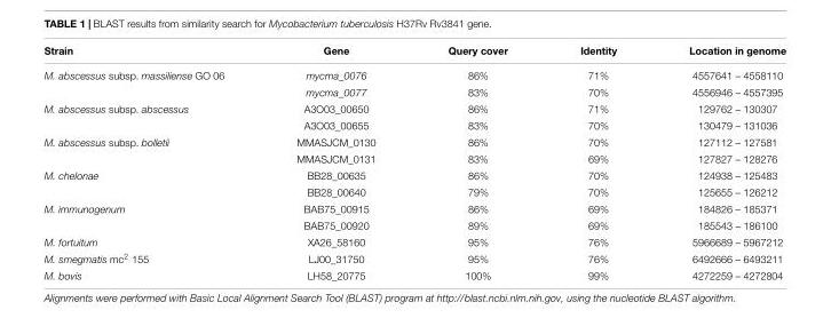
<table><thead><tr><td>Strain</td><td>Gene</td><td>Query cover</td><td>Identity</td><td>Location in genome</td></tr></thead><tbody><tr><td rowspan="2">M. abscessus subsp. massiliense GO 06</td><td>mycma_0076</td><td>86%</td><td>71%</td><td>4557641 – 4558110</td></tr><tr><td>mycma_0077</td><td>83%</td><td>70%</td><td>4556946 – 4557395</td></tr><tr><td rowspan="2">M. abscessus subsp. abscessus</td><td>A3O03_00650</td><td>86%</td><td>71%</td><td>129762 – 130307</td></tr><tr><td>A3O03_00655</td><td>83%</td><td>70%</td><td>130479 – 131036</td></tr><tr><td rowspan="2">M. abscessus subsp. bolletii</td><td>MMASJCM_0130</td><td>86%</td><td>70%</td><td>127112 – 127581</td></tr><tr><td>MMASJCM_0131</td><td>83%</td><td>69%</td><td>127827 – 128276</td></tr><tr><td rowspan="2">M. chelonae</td><td>BB28_00635</td><td>86%</td><td>70%</td><td>124938 – 125483</td></tr><tr><td>BB28_00640</td><td>79%</td><td>70%</td><td>125655 – 126212</td></tr><tr><td rowspan="2">M. immunogenum</td><td>BAB75_00915</td><td>86%</td><td>69%</td><td>184826 – 185371</td></tr><tr><td>BAB75_00920</td><td>89%</td><td>69%</td><td>185543 – 186100</td></tr><tr><td>M. fortuitum</td><td>XA26_58160</td><td>95%</td><td>76%</td><td>5966689 – 5967212</td></tr><tr><td>M. smegmatis mc<sup>2</sup> 155</td><td>LJ00_31750</td><td>95%</td><td>76%</td><td>6492666 – 6493211</td></tr><tr><td>M. bovis</td><td>LH58_20775</td><td>100%</td><td>99%</td><td>4272259 – 4272804</td></tr></tbody></table>